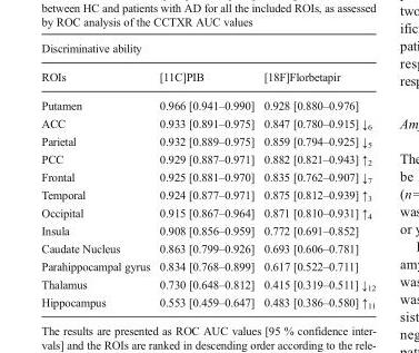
<table><thead><tr><td colspan="3">Discriminative ability</td></tr><tr><td>ROIs</td><td>[11C]PIB</td><td>[18F]Florbetapir</td></tr></thead><tbody><tr><td>Putamen</td><td>0.966 [0.941–0.990]</td><td>0.928 [0.880–0.976]</td></tr><tr><td>ACC</td><td>0.933 [0.891–0.975]</td><td>0.847 [0.780–0.915] ↓<sub>6</sub></td></tr><tr><td>Parietal</td><td>0.932 [0.889–0.975]</td><td>0.859 [0.794–0.925] ↓<sub>5</sub></td></tr><tr><td>PCC</td><td>0.929 [0.887–0.971]</td><td>0.882 [0.821–0.943] ↑<sub>2</sub></td></tr><tr><td>Frontal</td><td>0.925 [0.881–0.970]</td><td>0.835 [0.762–0.907] ↓<sub>7</sub></td></tr><tr><td>Temporal</td><td>0.924 [0.877–0.971]</td><td>0.875 [0.812–0.939] ↑<sub>3</sub></td></tr><tr><td>Occipital</td><td>0.915 [0.867–0.964]</td><td>0.871 [0.810–0.931] ↑<sub>4</sub></td></tr><tr><td>Insula</td><td>0.908 [0.856–0.959]</td><td>0.772 [0.691–0.852]</td></tr><tr><td>Caudate Nucleus</td><td>0.863 [0.799–0.926]</td><td>0.693 [0.606–0.781]</td></tr><tr><td>Parahippocampal gyrus</td><td>0.834 [0.768–0.899]</td><td>0.617 [0.522–0.711]</td></tr><tr><td>Thalamus</td><td>0.730 [0.648–0.812]</td><td>0.415 [0.319–0.511] ↓<sub>12</sub></td></tr><tr><td>Hippocampus</td><td>0.553 [0.459–0.647]</td><td>0.483 [0.386–0.580] ↑<sub>11</sub></td></tr></tbody></table>